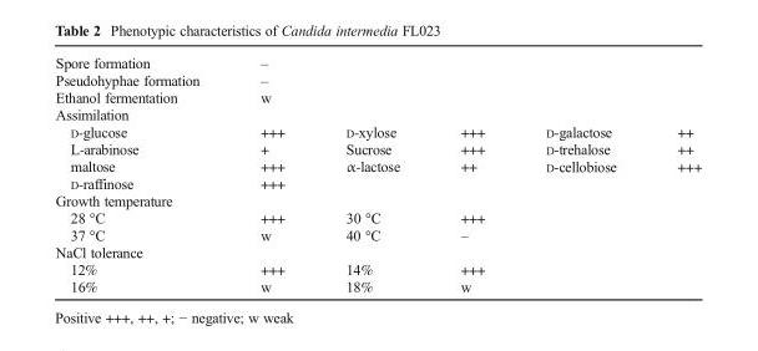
<table><tbody><tr><td>Spore formation</td><td>–</td><td></td><td></td><td></td><td></td></tr><tr><td>Pseudohyphae formation</td><td>–</td><td></td><td></td><td></td><td></td></tr><tr><td>Ethanol fermentation</td><td>w</td><td></td><td></td><td></td><td></td></tr><tr><td colspan="6">Assimilation</td></tr><tr><td>D-glucose</td><td>+++</td><td>D-xylose</td><td>+++</td><td>D-galactose</td><td>++</td></tr><tr><td>L-arabinose</td><td>+</td><td>Sucrose</td><td>+++</td><td>D-trehalose</td><td>++</td></tr><tr><td>maltose</td><td>+++</td><td>α-lactose</td><td>++</td><td>D-cellobiose</td><td>+++</td></tr><tr><td>D-raffinose</td><td>+++</td><td></td><td></td><td></td><td></td></tr><tr><td colspan="6">Growth temperature</td></tr><tr><td>28 °C</td><td>+++</td><td>30 °C</td><td>+++</td><td></td><td></td></tr><tr><td>37 °C</td><td>w</td><td>40 °C</td><td>–</td><td></td><td></td></tr><tr><td colspan="6">NaCl tolerance</td></tr><tr><td>12%</td><td>+++</td><td>14%</td><td>+++</td><td></td><td></td></tr><tr><td>16%</td><td>w</td><td>18%</td><td>w</td><td></td><td></td></tr></tbody></table>